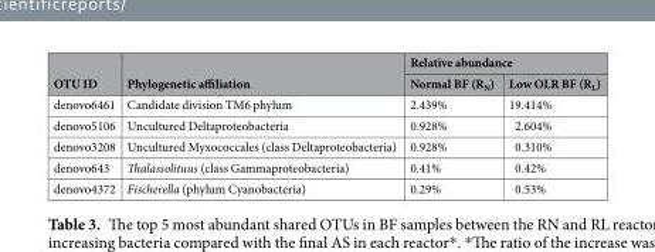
<table><thead><tr><td rowspan="2">OTU ID</td><td rowspan="2">Phylogenetic affiliation</td><td colspan="2">Relative abundance</td></tr><tr><td>Normal BF (R<sub>N</sub>)</td><td>Low OLR BF (R<sub>L</sub>)</td></tr></thead><tbody><tr><td>denovo6461</td><td>Candidate division TM6 phylum</td><td>2.439%</td><td>19.414%</td></tr><tr><td>denovo5106</td><td>Uncultured Deltaproteobacteria</td><td>0.928%</td><td>2.604%</td></tr><tr><td>denovo3208</td><td>Uncultured Myxococcales (class Deltaproteobacteria)</td><td>0.928%</td><td>0.310%</td></tr><tr><td>denovo643</td><td>Thalassolituus (class Gammaproteobacteria)</td><td>0.41%</td><td>0.42%</td></tr><tr><td>denovo4372</td><td>Fischerella (phylum Cyanobacteria)</td><td>0.29%</td><td>0.53%</td></tr></tbody></table>